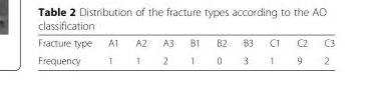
<table><tbody><tr><td>Fracture type</td><td>A1</td><td>A2</td><td>A3</td><td>B1</td><td>B2</td><td>B3</td><td>C1</td><td>C2</td><td>C3</td></tr><tr><td>Frequency</td><td>1</td><td>1</td><td>2</td><td>1</td><td>0</td><td>3</td><td>1</td><td>9</td><td>2</td></tr></tbody></table>